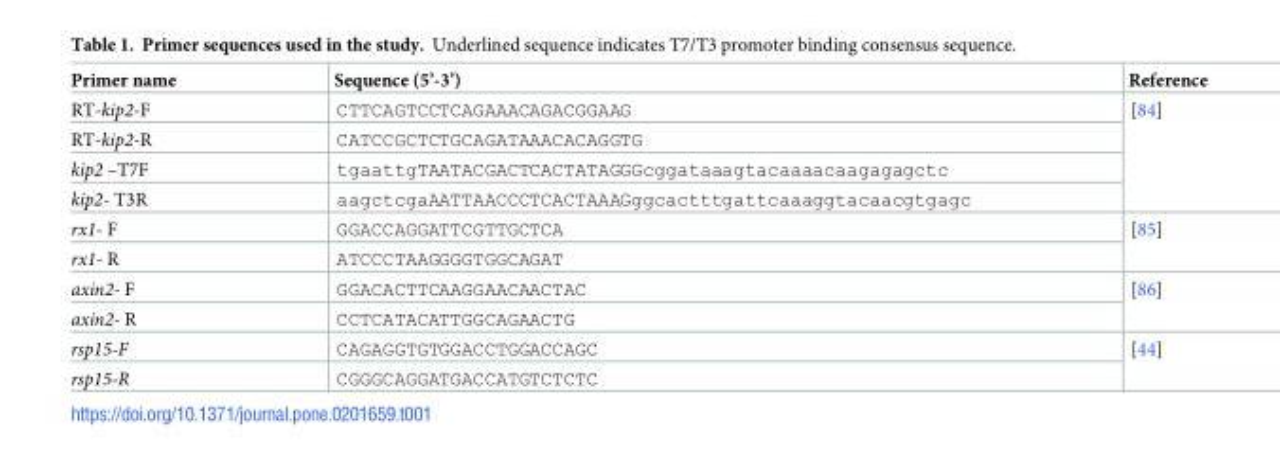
<table><thead><tr><td>Primer name</td><td>Sequence (5’-3’)</td><td>Reference</td></tr></thead><tbody><tr><td>RT-kip2-F</td><td>CTTCAGTCCTCAGAAACAGACGGAAG</td><td rowspan="4">[84]</td></tr><tr><td>RT-kip2-R</td><td>CATCCGCTCTGCAGATAAACACAGGTG</td></tr><tr><td>kip2 –T7F</td><td>tgaattgTAATACGACTCACTATAGGGcggataaagtacaaaacaagagagctc</td></tr><tr><td>kip2- T3R</td><td>aagctcgaAATTAACCCTCACTAAAGggcactttgattcaaaggtacaacgtgagc</td></tr><tr><td>rx1- F</td><td>GGACCAGGATTCGTTGCTCA</td><td rowspan="2">[85]</td></tr><tr><td>rx1- R</td><td>ATCCCTAAGGGGTGGCAGAT</td></tr><tr><td>axin2- F</td><td>GGACACTTCAAGGAACAACTAC</td><td rowspan="2">[86]</td></tr><tr><td>axin2- R</td><td>CCTCATACATTGGCAGAACTG</td></tr><tr><td>rsp15-F</td><td>CAGAGGTGTGGACCTGGACCAGC</td><td rowspan="2">[44]</td></tr><tr><td>rsp15-R</td><td>CGGGCAGGATGACCATGTCTCTC</td></tr></tbody></table>